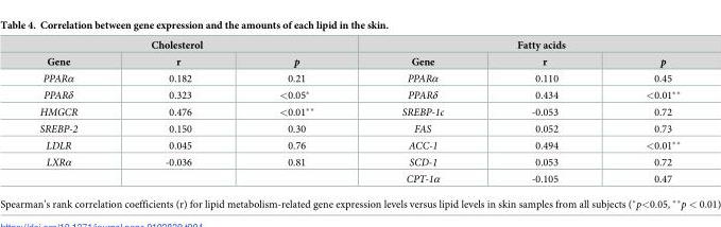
<table><thead><tr><td colspan="3">Cholesterol</td><td colspan="3">Fatty acids</td></tr><tr><td>Gene</td><td>r</td><td>p</td><td>Gene</td><td>r</td><td>p</td></tr></thead><tbody><tr><td>PPARα</td><td>0.182</td><td>0.21</td><td>PPARα</td><td>0.110</td><td>0.45</td></tr><tr><td>PPARδ</td><td>0.323</td><td>&lt;0.05*</td><td>PPARδ</td><td>0.434</td><td>&lt;0.01**</td></tr><tr><td>HMGCR</td><td>0.476</td><td>&lt;0.01**</td><td>SREBP-1c</td><td>-0.053</td><td>0.72</td></tr><tr><td>SREBP-2</td><td>0.150</td><td>0.30</td><td>FAS</td><td>0.052</td><td>0.73</td></tr><tr><td>LDLR</td><td>0.045</td><td>0.76</td><td>ACC-1</td><td>0.494</td><td>&lt;0.01**</td></tr><tr><td rowspan="2">LXRα</td><td>-0.036</td><td>0.81</td><td>SCD-1</td><td>0.053</td><td>0.72</td></tr><tr><td></td><td></td><td>CPT-1α</td><td>-0.105</td><td>0.47</td></tr></tbody></table>